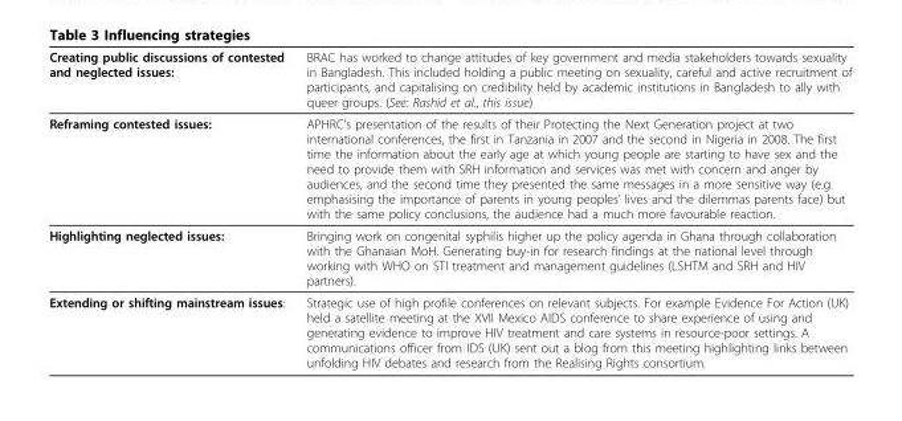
<table><thead><tr><td>Creating public discussions of contested and neglected issues:</td><td>BRAC has worked to change attitudes of key government and media stakeholders towards sexuality in Bangladesh. This included holding a public meeting on sexuality, careful and active recruitment of participants, and capitalising on credibility held by academic institutions in Bangladesh to ally with queer groups. (See: Rashid et al., this issue)</td></tr></thead><tbody><tr><td>Reframing contested issues:</td><td>APHRC’s presentation of the results of their Protecting the Next Generation project at two international conferences, the first in Tanzania in 2007 and the second in Nigeria in 2008. The first time the information about the early age at which young people are starting to have sex and the need to provide them with SRH information and services was met with concern and anger by audiences, and the second time they presented the same messages in a more sensitive way (e.g. emphasising the importance of parents in young peoples’ lives and the dilemmas parents face) but with the same policy conclusions, the audience had a much more favourable reaction.</td></tr><tr><td>Highlighting neglected issues:</td><td>Bringing work on congenital syphilis higher up the policy agenda in Ghana through collaboration with the Ghanaian MoH. Generating buy-in for research findings at the national level through working with WHO on STI treatment and management guidelines (LSHTM and SRH and HIV partners).</td></tr><tr><td>Extending or shifting mainstream issues:</td><td>Strategic use of high profile conferences on relevant subjects. For example Evidence For Action (UK) held a satellite meeting at the XVII Mexico AIDS conference to share experience of using and generating evidence to improve HIV treatment and care systems in resource-poor settings. A communications officer from IDS (UK) sent out a blog from this meeting highlighting links between unfolding HIV debates and research from the Realising Rights consortium.</td></tr></tbody></table>